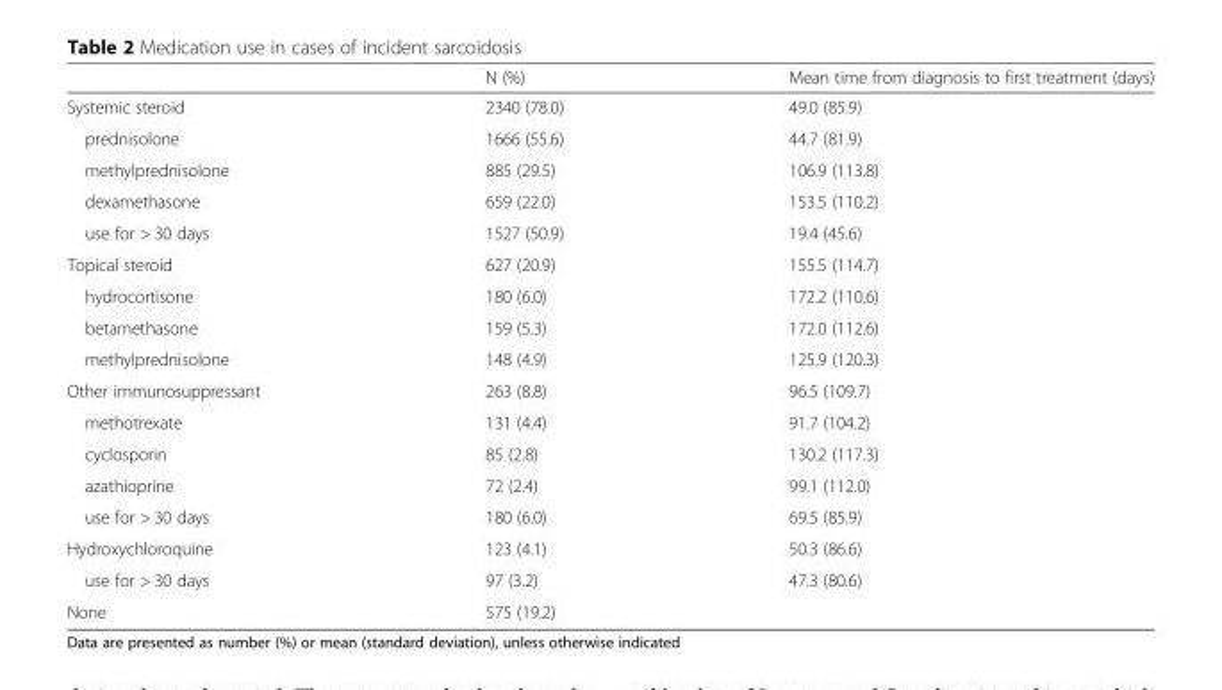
<table><thead><tr><td></td><td>N (%)</td><td>Mean time from diagnosis to first treatment (days)</td></tr></thead><tbody><tr><td>Systemic steroid</td><td>2340 (78.0)</td><td>49.0 (85.9)</td></tr><tr><td>prednisolone</td><td>1666 (55.6)</td><td>44.7 (81.9)</td></tr><tr><td>methylprednisolone</td><td>885 (29.5)</td><td>106.9 (113.8)</td></tr><tr><td>dexamethasone</td><td>659 (22.0)</td><td>153.5 (110.2)</td></tr><tr><td>use for &gt; 30 days</td><td>1527 (50.9)</td><td>19.4 (45.6)</td></tr><tr><td>Topical steroid</td><td>627 (20.9)</td><td>155.5 (114.7)</td></tr><tr><td>hydrocortisone</td><td>180 (6.0)</td><td>172.2 (110.6)</td></tr><tr><td>betamethasone</td><td>159 (5.3)</td><td>172.0 (112.6)</td></tr><tr><td>methylprednisolone</td><td>148 (4.9)</td><td>125.9 (120.3)</td></tr><tr><td>Other immunosuppressant</td><td>263 (8.8)</td><td>96.5 (109.7)</td></tr><tr><td>methotrexate</td><td>131 (4.4)</td><td>91.7 (104.2)</td></tr><tr><td>cyclosporin</td><td>85 (2.8)</td><td>130.2 (117.3)</td></tr><tr><td>azathioprine</td><td>72 (2.4)</td><td>99.1 (112.0)</td></tr><tr><td>use for &gt; 30 days</td><td>180 (6.0)</td><td>69.5 (85.9)</td></tr><tr><td>Hydroxychloroquine</td><td>123 (4.1)</td><td>50.3 (86.6)</td></tr><tr><td>use for &gt; 30 days</td><td>97 (3.2)</td><td>47.3 (80.6)</td></tr><tr><td>None</td><td>575 (19.2)</td><td></td></tr></tbody></table>